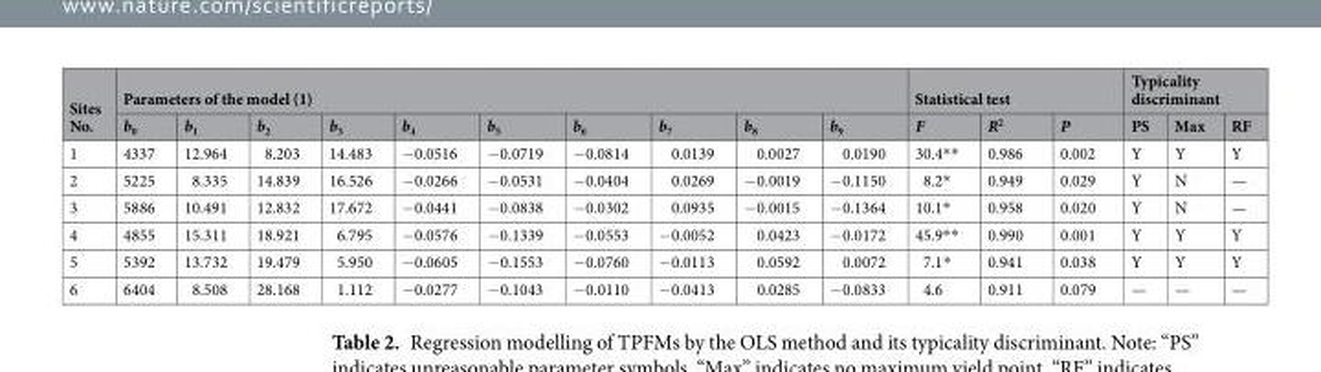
<table><thead><tr><td rowspan="2">Sites No.</td><td colspan="10">Parameters of the model (1)</td><td colspan="3">Statistical test</td><td colspan="3">Typicality discriminant</td></tr><tr><td>b<sub>0</sub></td><td>b<sub>1</sub></td><td>b<sub>2</sub></td><td>b<sub>3</sub></td><td>b<sub>4</sub></td><td>b<sub>5</sub></td><td>b<sub>6</sub></td><td>b<sub>7</sub></td><td>b<sub>8</sub></td><td>b<sub>9</sub></td><td>F</td><td>R<sup>2</sup></td><td>P</td><td>PS</td><td>Max</td><td>RF</td></tr></thead><tbody><tr><td>1</td><td>4337</td><td>12.964</td><td>8.203</td><td>14.483</td><td>−0.0516</td><td>−0.0719</td><td>−0.0814</td><td>0.0139</td><td>0.0027</td><td>0.0190</td><td>30.4**</td><td>0.986</td><td>0.002</td><td>Y</td><td>Y</td><td>Y</td></tr><tr><td>2</td><td>5225</td><td>8.335</td><td>14.839</td><td>16.526</td><td>−0.0266</td><td>−0.0531</td><td>−0.0404</td><td>0.0269</td><td>−0.0019</td><td>−0.1150</td><td>8.2*</td><td>0.949</td><td>0.029</td><td>Y</td><td>N</td><td>—</td></tr><tr><td>3</td><td>5886</td><td>10.491</td><td>12.832</td><td>17.672</td><td>−0.0441</td><td>−0.0838</td><td>−0.0302</td><td>0.0935</td><td>−0.0015</td><td>−0.1364</td><td>10.1*</td><td>0.958</td><td>0.020</td><td>Y</td><td>N</td><td>—</td></tr><tr><td>4</td><td>4855</td><td>15.311</td><td>18.921</td><td>6.795</td><td>−0.0576</td><td>−0.1339</td><td>−0.0553</td><td>−0.0052</td><td>0.0423</td><td>−0.0172</td><td>45.9**</td><td>0.990</td><td>0.001</td><td>Y</td><td>Y</td><td>Y</td></tr><tr><td>5</td><td>5392</td><td>13.732</td><td>19.479</td><td>5.950</td><td>−0.0605</td><td>−0.1553</td><td>−0.0760</td><td>−0.0113</td><td>0.0592</td><td>0.0072</td><td>7.1*</td><td>0.941</td><td>0.038</td><td>Y</td><td>Y</td><td>Y</td></tr><tr><td>6</td><td>6404</td><td>8.508</td><td>28.168</td><td>1.112</td><td>−0.0277</td><td>−0.1043</td><td>−0.0110</td><td>−0.0413</td><td>0.0285</td><td>−0.0833</td><td>4.6</td><td>0.911</td><td>0.079</td><td>—</td><td>—</td><td>—</td></tr></tbody></table>